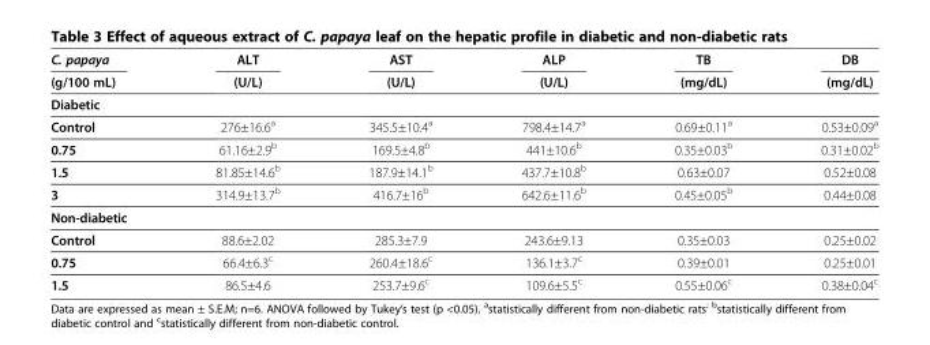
<table><thead><tr><td rowspan="2">C. papaya (g/100 mL)</td><td rowspan="2">ALT (U/L)</td><td rowspan="2">AST (U/L)</td><td rowspan="2">ALP (U/L)</td><td rowspan="2">TB (mg/dL)</td><td rowspan="2">DB (mg/dL)</td></tr><tr></tr></thead><tbody><tr><td colspan="6">Diabetic</td></tr><tr><td>Control</td><td>276±16.6<sup>a</sup></td><td>345.5±10.4<sup>a</sup></td><td>798.4±14.7<sup>a</sup></td><td>0.69±0.11<sup>a</sup></td><td>0.53±0.09<sup>a</sup></td></tr><tr><td>0.75</td><td>61.16±2.9<sup>b</sup></td><td>169.5±4.8<sup>b</sup></td><td>441±10.6<sup>b</sup></td><td>0.35±0.03<sup>b</sup></td><td>0.31±0.02<sup>b</sup></td></tr><tr><td>1.5</td><td>81.85±14.6<sup>b</sup></td><td>187.9±14.1<sup>b</sup></td><td>437.7±10.8<sup>b</sup></td><td>0.63±0.07</td><td>0.52±0.08</td></tr><tr><td>3</td><td>314.9±13.7<sup>b</sup></td><td>416.7±16<sup>b</sup></td><td>642.6±11.6<sup>b</sup></td><td>0.45±0.05<sup>b</sup></td><td>0.44±0.08</td></tr><tr><td colspan="6">Non-diabetic</td></tr><tr><td>Control</td><td>88.6±2.02</td><td>285.3±7.9</td><td>243.6±9.13</td><td>0.35±0.03</td><td>0.25±0.02</td></tr><tr><td>0.75</td><td>66.4±6.3<sup>c</sup></td><td>260.4±18.6<sup>c</sup></td><td>136.1±3.7<sup>c</sup></td><td>0.39±0.01</td><td>0.25±0.01</td></tr><tr><td>1.5</td><td>86.5±4.6</td><td>253.7±9.6<sup>c</sup></td><td>109.6±5.5<sup>c</sup></td><td>0.55±0.06<sup>c</sup></td><td>0.38±0.04<sup>c</sup></td></tr></tbody></table>